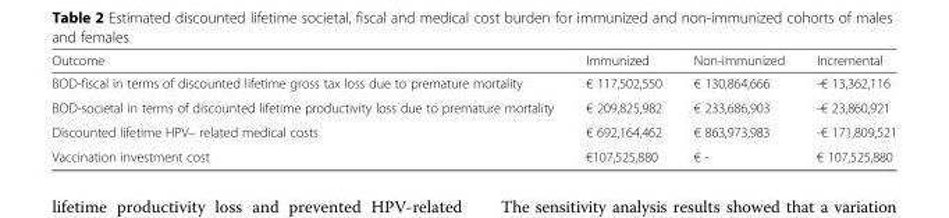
<table><thead><tr><td>Outcome</td><td>Immunized</td><td>Non-immunized</td><td>Incremental</td></tr></thead><tbody><tr><td>BOD-fiscal in terms of discounted lifetime gross tax loss due to premature mortality</td><td>€ 117,502,550</td><td>€ 130,864,666</td><td>-€ 13,362,116</td></tr><tr><td>BOD-societal in terms of discounted lifetime productivity loss due to premature mortality</td><td>€ 209,825,982</td><td>€ 233,686,903</td><td>-€ 23,860,921</td></tr><tr><td>Discounted lifetime HPV– related medical costs</td><td>€ 692,164,462</td><td>€ 863,973,983</td><td>-€ 171,809,521</td></tr><tr><td>Vaccination investment cost</td><td>€107,525,880</td><td>€ -</td><td>€ 107,525,880</td></tr></tbody></table>